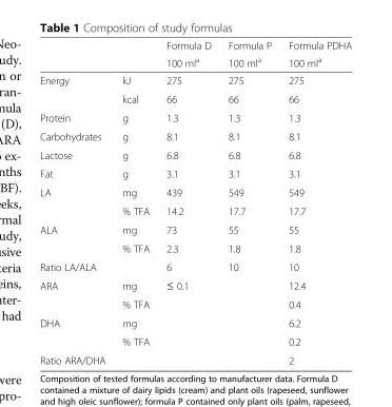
<table><thead><tr><td rowspan="2"></td><td rowspan="2"></td><td rowspan="2">Formula D 100 ml<sup>a</sup></td><td rowspan="2">Formula P 100 ml<sup>a</sup></td><td rowspan="2">Formula PDHA 100 ml<sup>a</sup></td></tr><tr></tr></thead><tbody><tr><td rowspan="2">Energy</td><td>kJ</td><td>275</td><td>275</td><td>275</td></tr><tr><td>kcal</td><td>66</td><td>66</td><td>66</td></tr><tr><td>Protein</td><td>g</td><td>1.3</td><td>1.3</td><td>1.3</td></tr><tr><td>Carbohydrates</td><td>g</td><td>8.1</td><td>8.1</td><td>8.1</td></tr><tr><td>Lactose</td><td>g</td><td>6.8</td><td>6.8</td><td>6.8</td></tr><tr><td>Fat</td><td>g</td><td>3.1</td><td>3.1</td><td>3.1</td></tr><tr><td rowspan="2">LA</td><td>mg</td><td>439</td><td>549</td><td>549</td></tr><tr><td>% TFA</td><td>14.2</td><td>17.7</td><td>17.7</td></tr><tr><td rowspan="2">ALA</td><td>mg</td><td>73</td><td>55</td><td>55</td></tr><tr><td>% TFA</td><td>2.3</td><td>1.8</td><td>1.8</td></tr><tr><td>Ratio LA/ALA</td><td></td><td>6</td><td>10</td><td>10</td></tr><tr><td rowspan="2">ARA</td><td>mg</td><td>≤ 0.1</td><td></td><td>12.4</td></tr><tr><td>% TFA</td><td></td><td></td><td>0.4</td></tr><tr><td rowspan="2">DHA</td><td>mg</td><td></td><td></td><td>6.2</td></tr><tr><td>% TFA</td><td></td><td></td><td>0.2</td></tr><tr><td>Ratio ARA/DHA</td><td></td><td></td><td></td><td>2</td></tr></tbody></table>